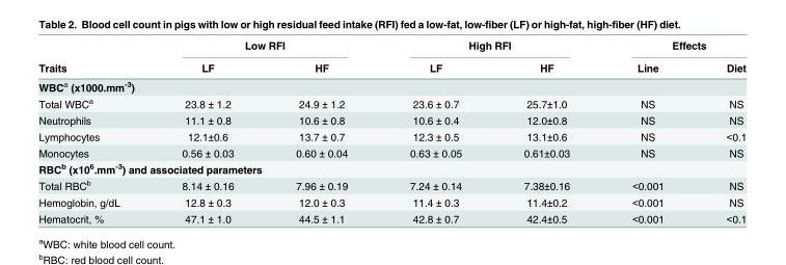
<table><thead><tr><td rowspan="2">Traits</td><td colspan="2">Low RFI</td><td colspan="2">High RFI</td><td colspan="2">Effects</td></tr><tr><td>LF</td><td>HF</td><td>LF</td><td>HF</td><td>Line</td><td>Diet</td></tr></thead><tbody><tr><td colspan="7">WBC<sup>a</sup> (x1000.mm<sup>-3</sup>)</td></tr><tr><td>Total WBC<sup>a</sup></td><td>23.8 ± 1.2</td><td>24.9 ± 1.2</td><td>23.6 ± 0.7</td><td>25.7±1.0</td><td>NS</td><td>NS</td></tr><tr><td>Neutrophils</td><td>11.1 ± 0.8</td><td>10.6 ± 0.8</td><td>10.6 ± 0.4</td><td>12.0±0.8</td><td>NS</td><td>NS</td></tr><tr><td>Lymphocytes</td><td>12.1±0.6</td><td>13.7 ± 0.7</td><td>12.3 ± 0.5</td><td>13.1±0.6</td><td>NS</td><td>&lt;0.1</td></tr><tr><td>Monocytes</td><td>0.56 ± 0.03</td><td>0.60 ± 0.04</td><td>0.63 ± 0.05</td><td>0.61±0.03</td><td>NS</td><td>NS</td></tr><tr><td colspan="7">RBC<sup>b</sup> (x10<sup>6</sup>.mm<sup>-3</sup>) and associated parameters</td></tr><tr><td>Total RBC<sup>b</sup></td><td>8.14 ± 0.16</td><td>7.96 ± 0.19</td><td>7.24 ± 0.14</td><td>7.38±0.16</td><td>&lt;0.001</td><td>NS</td></tr><tr><td>Hemoglobin, g/dL</td><td>12.8 ± 0.3</td><td>12.0 ± 0.3</td><td>11.4 ± 0.3</td><td>11.4±0.2</td><td>&lt;0.001</td><td>NS</td></tr><tr><td>Hematocrit, %</td><td>47.1 ± 1.0</td><td>44.5 ± 1.1</td><td>42.8 ± 0.7</td><td>42.4±0.5</td><td>&lt;0.001</td><td>&lt;0.1</td></tr></tbody></table>